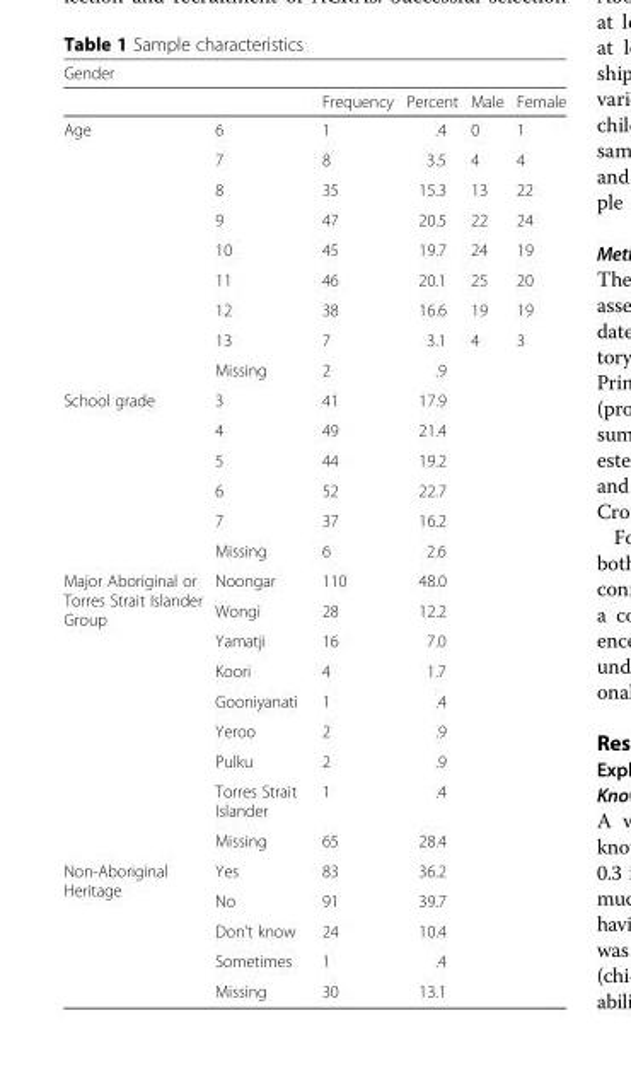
<table><thead><tr><td colspan="6">Gender</td></tr><tr><td></td><td></td><td>Frequency</td><td>Percent</td><td>Male</td><td>Female</td></tr></thead><tbody><tr><td rowspan="9">Age</td><td>6</td><td>1</td><td>.4</td><td>0</td><td>1</td></tr><tr><td>7</td><td>8</td><td>3.5</td><td>4</td><td>4</td></tr><tr><td>8</td><td>35</td><td>15.3</td><td>13</td><td>22</td></tr><tr><td>9</td><td>47</td><td>20.5</td><td>22</td><td>24</td></tr><tr><td>10</td><td>45</td><td>19.7</td><td>24</td><td>19</td></tr><tr><td>11</td><td>46</td><td>20.1</td><td>25</td><td>20</td></tr><tr><td>12</td><td>38</td><td>16.6</td><td>19</td><td>19</td></tr><tr><td>13</td><td>7</td><td>3.1</td><td>4</td><td>3</td></tr><tr><td>Missing</td><td>2</td><td>.9</td><td></td><td></td></tr><tr><td rowspan="6">School grade</td><td>3</td><td>41</td><td>17.9</td><td></td><td></td></tr><tr><td>4</td><td>49</td><td>21.4</td><td></td><td></td></tr><tr><td>5</td><td>44</td><td>19.2</td><td></td><td></td></tr><tr><td>6</td><td>52</td><td>22.7</td><td></td><td></td></tr><tr><td>7</td><td>37</td><td>16.2</td><td></td><td></td></tr><tr><td>Missing</td><td>6</td><td>2.6</td><td></td><td></td></tr><tr><td rowspan="9">Major Aboriginal or Torres Strait Islander Group</td><td>Noongar</td><td>110</td><td>48.0</td><td></td><td></td></tr><tr><td>Wongi</td><td>28</td><td>12.2</td><td></td><td></td></tr><tr><td>Yamatji</td><td>16</td><td>7.0</td><td></td><td></td></tr><tr><td>Koori</td><td>4</td><td>1.7</td><td></td><td></td></tr><tr><td>Gooniyanati</td><td>1</td><td>.4</td><td></td><td></td></tr><tr><td>Yeroo</td><td>2</td><td>.9</td><td></td><td></td></tr><tr><td>Pulku</td><td>2</td><td>.9</td><td></td><td></td></tr><tr><td>Torres Strait Islander</td><td>1</td><td>.4</td><td></td><td></td></tr><tr><td>Missing</td><td>65</td><td>28.4</td><td></td><td></td></tr><tr><td rowspan="5">Non-Aboriginal Heritage</td><td>Yes</td><td>83</td><td>36.2</td><td></td><td></td></tr><tr><td>No</td><td>91</td><td>39.7</td><td></td><td></td></tr><tr><td>Don’t know</td><td>24</td><td>10.4</td><td></td><td></td></tr><tr><td>Sometimes</td><td>1</td><td>.4</td><td></td><td></td></tr><tr><td>Missing</td><td>30</td><td>13.1</td><td></td><td></td></tr></tbody></table>